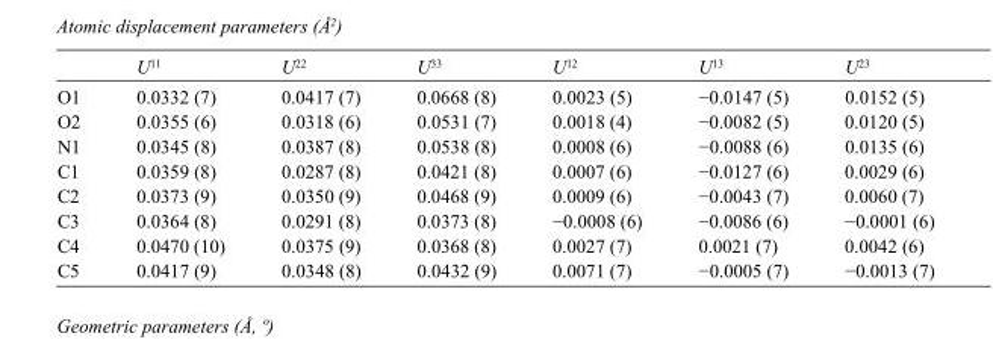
<table><thead><tr><td></td><td>U<sup>11</sup></td><td>U<sup>22</sup></td><td>U<sup>33</sup></td><td>U<sup>12</sup></td><td>U<sup>13</sup></td><td>U<sup>23</sup></td></tr></thead><tbody><tr><td>O1</td><td>0.0332 (7)</td><td>0.0417 (7)</td><td>0.0668 (8)</td><td>0.0023 (5)</td><td>−0.0147 (5)</td><td>0.0152 (5)</td></tr><tr><td>O2</td><td>0.0355 (6)</td><td>0.0318 (6)</td><td>0.0531 (7)</td><td>0.0018 (4)</td><td>−0.0082 (5)</td><td>0.0120 (5)</td></tr><tr><td>N1</td><td>0.0345 (8)</td><td>0.0387 (8)</td><td>0.0538 (8)</td><td>0.0008 (6)</td><td>−0.0088 (6)</td><td>0.0135 (6)</td></tr><tr><td>C1</td><td>0.0359 (8)</td><td>0.0287 (8)</td><td>0.0421 (8)</td><td>0.0007 (6)</td><td>−0.0127 (6)</td><td>0.0029 (6)</td></tr><tr><td>C2</td><td>0.0373 (9)</td><td>0.0350 (9)</td><td>0.0468 (9)</td><td>0.0009 (6)</td><td>−0.0043 (7)</td><td>0.0060 (7)</td></tr><tr><td>C3</td><td>0.0364 (8)</td><td>0.0291 (8)</td><td>0.0373 (8)</td><td>−0.0008 (6)</td><td>−0.0086 (6)</td><td>−0.0001 (6)</td></tr><tr><td>C4</td><td>0.0470 (10)</td><td>0.0375 (9)</td><td>0.0368 (8)</td><td>0.0027 (7)</td><td>0.0021 (7)</td><td>0.0042 (6)</td></tr><tr><td>C5</td><td>0.0417 (9)</td><td>0.0348 (8)</td><td>0.0432 (9)</td><td>0.0071 (7)</td><td>−0.0005 (7)</td><td>−0.0013 (7)</td></tr></tbody></table>